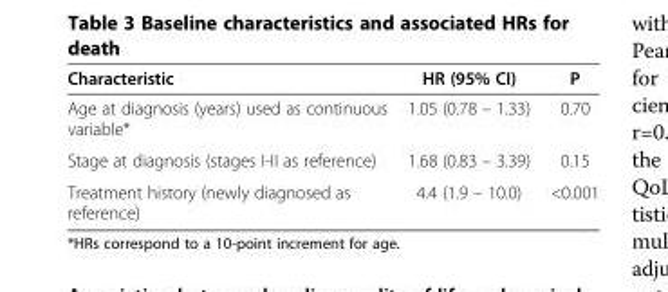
<table><thead><tr><td>Characteristic</td><td>HR (95% CI)</td><td>P</td></tr></thead><tbody><tr><td>Age at diagnosis (years) used as continuous variable*</td><td>1.05 (0.78 – 1.33)</td><td>0.70</td></tr><tr><td>Stage at diagnosis (stages I-II as reference)</td><td>1.68 (0.83 – 3.39)</td><td>0.15</td></tr><tr><td>Treatment history (newly diagnosed as reference)</td><td>4.4 (1.9 – 10.0)</td><td>&lt;0.001</td></tr></tbody></table>